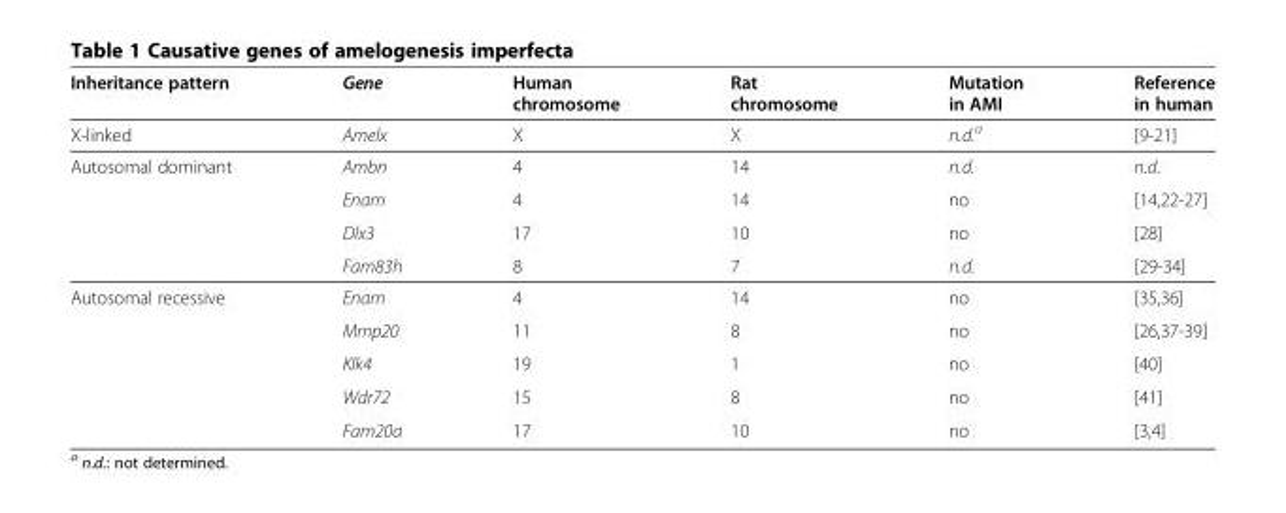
<table><thead><tr><td>Inheritance pattern</td><td>Gene</td><td>Human chromosome</td><td>Rat chromosome</td><td>Mutation in AMI</td><td>Reference in human</td></tr></thead><tbody><tr><td>X-linked</td><td>Amelx</td><td>X</td><td>X</td><td>n.d.<sup>a</sup></td><td>[9-21]</td></tr><tr><td rowspan="4">Autosomal dominant</td><td>Ambn</td><td>4</td><td>14</td><td>n.d.</td><td>n.d.</td></tr><tr><td>Enam</td><td>4</td><td>14</td><td>no</td><td>[14,22-27]</td></tr><tr><td>Dlx3</td><td>17</td><td>10</td><td>no</td><td>[28]</td></tr><tr><td>Fam83h</td><td>8</td><td>7</td><td>n.d.</td><td>[29-34]</td></tr><tr><td rowspan="5">Autosomal recessive</td><td>Enam</td><td>4</td><td>14</td><td>no</td><td>[35,36]</td></tr><tr><td>Mmp20</td><td>11</td><td>8</td><td>no</td><td>[26,37-39]</td></tr><tr><td>Klk4</td><td>19</td><td>1</td><td>no</td><td>[40]</td></tr><tr><td>Wdr72</td><td>15</td><td>8</td><td>no</td><td>[41]</td></tr><tr><td>Fam20a</td><td>17</td><td>10</td><td>no</td><td>[3,4]</td></tr></tbody></table>